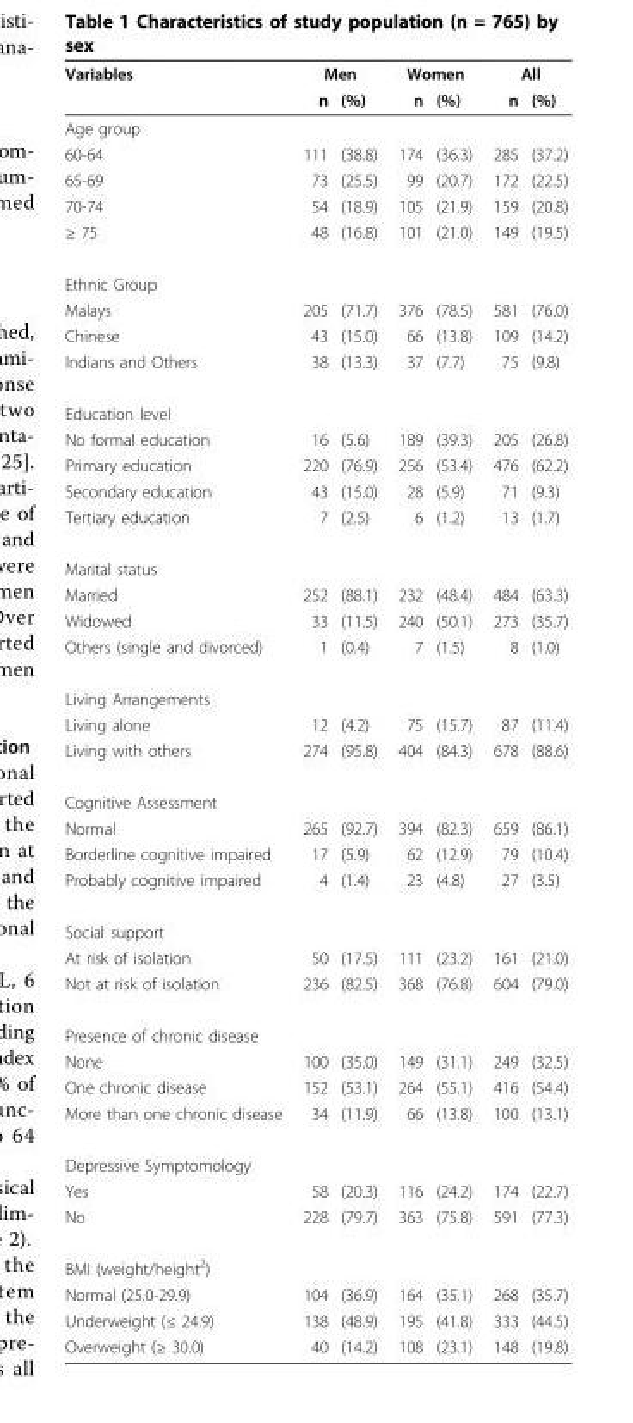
<table><thead><tr><td rowspan="2">Variables</td><td colspan="2">Men</td><td colspan="2">Women</td><td colspan="2">All</td></tr><tr><td>n</td><td>(%)</td><td>n</td><td>(%)</td><td>n</td><td>(%)</td></tr></thead><tbody><tr><td colspan="7">Age group</td></tr><tr><td>60-64</td><td>111</td><td>(38.8)</td><td>174</td><td>(36.3)</td><td>285</td><td>(37.2)</td></tr><tr><td>65-69</td><td>73</td><td>(25.5)</td><td>99</td><td>(20.7)</td><td>172</td><td>(22.5)</td></tr><tr><td>70-74</td><td>54</td><td>(18.9)</td><td>105</td><td>(21.9)</td><td>159</td><td>(20.8)</td></tr><tr><td>≥ 75</td><td>48</td><td>(16.8)</td><td>101</td><td>(21.0)</td><td>149</td><td>(19.5)</td></tr><tr><td colspan="7">Ethnic Group</td></tr><tr><td>Malays</td><td>205</td><td>(71.7)</td><td>376</td><td>(78.5)</td><td>581</td><td>(76.0)</td></tr><tr><td>Chinese</td><td>43</td><td>(15.0)</td><td>66</td><td>(13.8)</td><td>109</td><td>(14.2)</td></tr><tr><td>Indians and Others</td><td>38</td><td>(13.3)</td><td>37</td><td>(7.7)</td><td>75</td><td>(9.8)</td></tr><tr><td colspan="7">Education level</td></tr><tr><td>No formal education</td><td>16</td><td>(5.6)</td><td>189</td><td>(39.3)</td><td>205</td><td>(26.8)</td></tr><tr><td>Primary education</td><td>220</td><td>(76.9)</td><td>256</td><td>(53.4)</td><td>476</td><td>(62.2)</td></tr><tr><td>Secondary education</td><td>43</td><td>(15.0)</td><td>28</td><td>(5.9)</td><td>71</td><td>(9.3)</td></tr><tr><td>Tertiary education</td><td>7</td><td>(2.5)</td><td>6</td><td>(1.2)</td><td>13</td><td>(1.7)</td></tr><tr><td colspan="7">Marital status</td></tr><tr><td>Married</td><td>252</td><td>(88.1)</td><td>232</td><td>(48.4)</td><td>484</td><td>(63.3)</td></tr><tr><td>Widowed</td><td>33</td><td>(11.5)</td><td>240</td><td>(50.1)</td><td>273</td><td>(35.7)</td></tr><tr><td>Others (single and divorced)</td><td>1</td><td>(0.4)</td><td>7</td><td>(1.5)</td><td>8</td><td>(1.0)</td></tr><tr><td colspan="7">Living Arrangements</td></tr><tr><td>Living alone</td><td>12</td><td>(4.2)</td><td>75</td><td>(15.7)</td><td>87</td><td>(11.4)</td></tr><tr><td>Living with others</td><td>274</td><td>(95.8)</td><td>404</td><td>(84.3)</td><td>678</td><td>(88.6)</td></tr><tr><td colspan="7">Cognitive Assessment</td></tr><tr><td>Normal</td><td>265</td><td>(92.7)</td><td>394</td><td>(82.3)</td><td>659</td><td>(86.1)</td></tr><tr><td>Borderline cognitive impaired</td><td>17</td><td>(5.9)</td><td>62</td><td>(12.9)</td><td>79</td><td>(10.4)</td></tr><tr><td>Probably cognitive impaired</td><td>4</td><td>(1.4)</td><td>23</td><td>(4.8)</td><td>27</td><td>(3.5)</td></tr><tr><td colspan="7">Social support</td></tr><tr><td>At risk of isolation</td><td>50</td><td>(17.5)</td><td>111</td><td>(23.2)</td><td>161</td><td>(21.0)</td></tr><tr><td>Not at risk of isolation</td><td>236</td><td>(82.5)</td><td>368</td><td>(76.8)</td><td>604</td><td>(79.0)</td></tr><tr><td colspan="7">Presence of chronic disease</td></tr><tr><td>None</td><td>100</td><td>(35.0)</td><td>149</td><td>(31.1)</td><td>249</td><td>(32.5)</td></tr><tr><td>One chronic disease</td><td>152</td><td>(53.1)</td><td>264</td><td>(55.1)</td><td>416</td><td>(54.4)</td></tr><tr><td>More than one chronic disease</td><td>34</td><td>(11.9)</td><td>66</td><td>(13.8)</td><td>100</td><td>(13.1)</td></tr><tr><td colspan="7">Depressive Symptomology</td></tr><tr><td>Yes</td><td>58</td><td>(20.3)</td><td>116</td><td>(24.2)</td><td>174</td><td>(22.7)</td></tr><tr><td>No</td><td>228</td><td>(79.7)</td><td>363</td><td>(75.8)</td><td>591</td><td>(77.3)</td></tr><tr><td colspan="7">BMI (weight/height<sup>2</sup>)</td></tr><tr><td>Normal (25.0-29.9)</td><td>104</td><td>(36.9)</td><td>164</td><td>(35.1)</td><td>268</td><td>(35.7)</td></tr><tr><td>Underweight (≤ 24.9)</td><td>138</td><td>(48.9)</td><td>195</td><td>(41.8)</td><td>333</td><td>(44.5)</td></tr><tr><td>Overweight (≥ 30.0)</td><td>40</td><td>(14.2)</td><td>108</td><td>(23.1)</td><td>148</td><td>(19.8)</td></tr></tbody></table>